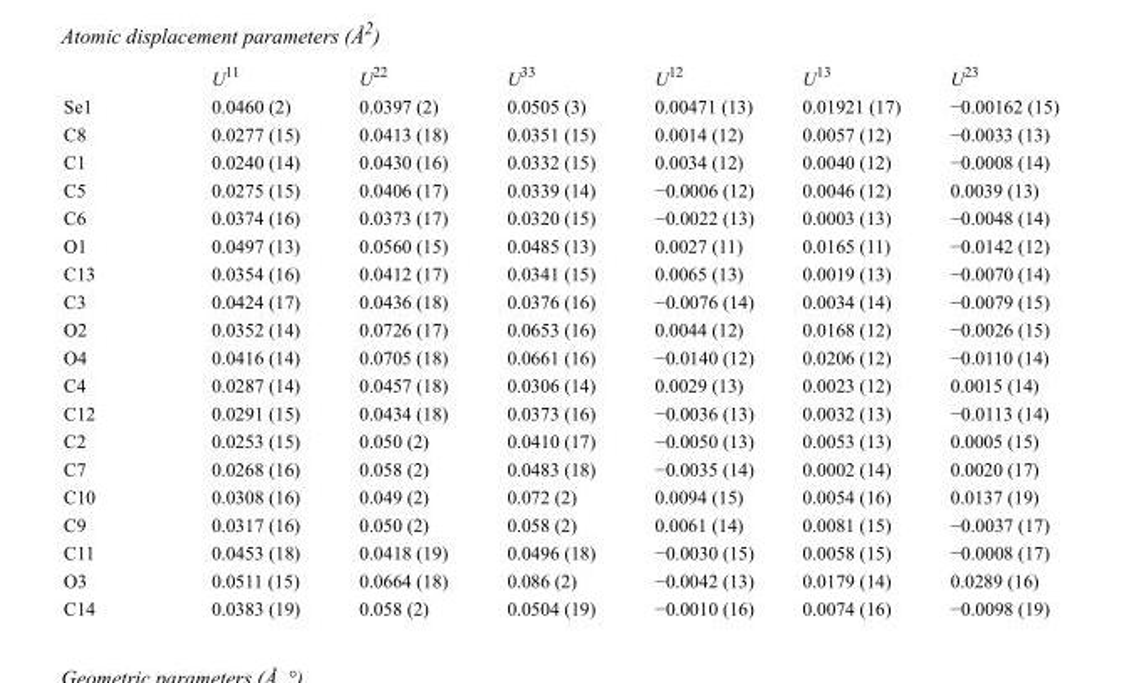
<table><thead><tr><td></td><td>U<sup>11</sup></td><td>U<sup>22</sup></td><td>U<sup>33</sup></td><td>U<sup>12</sup></td><td>U<sup>13</sup></td><td>U<sup>23</sup></td></tr></thead><tbody><tr><td>Se1</td><td>0.0460 (2)</td><td>0.0397 (2)</td><td>0.0505 (3)</td><td>0.00471 (13)</td><td>0.01921 (17)</td><td>−0.00162 (15)</td></tr><tr><td>C8</td><td>0.0277 (15)</td><td>0.0413 (18)</td><td>0.0351 (15)</td><td>0.0014 (12)</td><td>0.0057 (12)</td><td>−0.0033 (13)</td></tr><tr><td>C1</td><td>0.0240 (14)</td><td>0.0430 (16)</td><td>0.0332 (15)</td><td>0.0034 (12)</td><td>0.0040 (12)</td><td>−0.0008 (14)</td></tr><tr><td>C5</td><td>0.0275 (15)</td><td>0.0406 (17)</td><td>0.0339 (14)</td><td>−0.0006 (12)</td><td>0.0046 (12)</td><td>0.0039 (13)</td></tr><tr><td>C6</td><td>0.0374 (16)</td><td>0.0373 (17)</td><td>0.0320 (15)</td><td>−0.0022 (13)</td><td>0.0003 (13)</td><td>−0.0048 (14)</td></tr><tr><td>O1</td><td>0.0497 (13)</td><td>0.0560 (15)</td><td>0.0485 (13)</td><td>0.0027 (11)</td><td>0.0165 (11)</td><td>−0.0142 (12)</td></tr><tr><td>C13</td><td>0.0354 (16)</td><td>0.0412 (17)</td><td>0.0341 (15)</td><td>0.0065 (13)</td><td>0.0019 (13)</td><td>−0.0070 (14)</td></tr><tr><td>C3</td><td>0.0424 (17)</td><td>0.0436 (18)</td><td>0.0376 (16)</td><td>−0.0076 (14)</td><td>0.0034 (14)</td><td>−0.0079 (15)</td></tr><tr><td>O2</td><td>0.0352 (14)</td><td>0.0726 (17)</td><td>0.0653 (16)</td><td>0.0044 (12)</td><td>0.0168 (12)</td><td>−0.0026 (15)</td></tr><tr><td>O4</td><td>0.0416 (14)</td><td>0.0705 (18)</td><td>0.0661 (16)</td><td>−0.0140 (12)</td><td>0.0206 (12)</td><td>−0.0110 (14)</td></tr><tr><td>C4</td><td>0.0287 (14)</td><td>0.0457 (18)</td><td>0.0306 (14)</td><td>0.0029 (13)</td><td>0.0023 (12)</td><td>0.0015 (14)</td></tr><tr><td>C12</td><td>0.0291 (15)</td><td>0.0434 (18)</td><td>0.0373 (16)</td><td>−0.0036 (13)</td><td>0.0032 (13)</td><td>−0.0113 (14)</td></tr><tr><td>C2</td><td>0.0253 (15)</td><td>0.050 (2)</td><td>0.0410 (17)</td><td>−0.0050 (13)</td><td>0.0053 (13)</td><td>0.0005 (15)</td></tr><tr><td>C7</td><td>0.0268 (16)</td><td>0.058 (2)</td><td>0.0483 (18)</td><td>−0.0035 (14)</td><td>0.0002 (14)</td><td>0.0020 (17)</td></tr><tr><td>C10</td><td>0.0308 (16)</td><td>0.049 (2)</td><td>0.072 (2)</td><td>0.0094 (15)</td><td>0.0054 (16)</td><td>0.0137 (19)</td></tr><tr><td>C9</td><td>0.0317 (16)</td><td>0.050 (2)</td><td>0.058 (2)</td><td>0.0061 (14)</td><td>0.0081 (15)</td><td>−0.0037 (17)</td></tr><tr><td>C11</td><td>0.0453 (18)</td><td>0.0418 (19)</td><td>0.0496 (18)</td><td>−0.0030 (15)</td><td>0.0058 (15)</td><td>−0.0008 (17)</td></tr><tr><td>O3</td><td>0.0511 (15)</td><td>0.0664 (18)</td><td>0.086 (2)</td><td>−0.0042 (13)</td><td>0.0179 (14)</td><td>0.0289 (16)</td></tr><tr><td>C14</td><td>0.0383 (19)</td><td>0.058 (2)</td><td>0.0504 (19)</td><td>−0.0010 (16)</td><td>0.0074 (16)</td><td>−0.0098 (19)</td></tr></tbody></table>